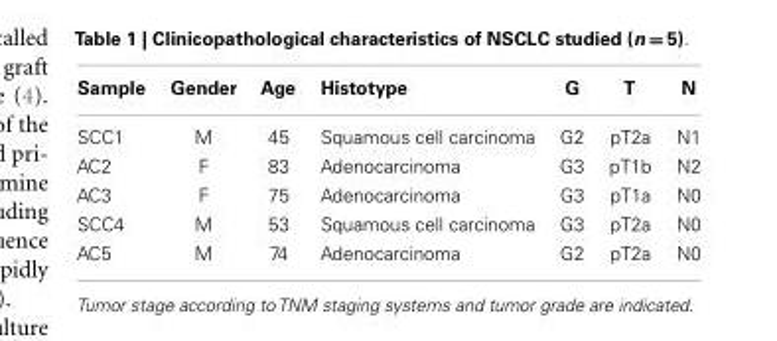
<table><thead><tr><td>Sample</td><td>Gender</td><td>Age</td><td>Histotype</td><td>G</td><td>T</td><td>N</td></tr></thead><tbody><tr><td>SCC1</td><td>M</td><td>45</td><td>Squamous cell carcinoma</td><td>G2</td><td>pT2a</td><td>N1</td></tr><tr><td>AC2</td><td>F</td><td>83</td><td>Adenocarcinoma</td><td>G3</td><td>pT1b</td><td>N2</td></tr><tr><td>AC3</td><td>F</td><td>75</td><td>Adenocarcinoma</td><td>G3</td><td>pT1a</td><td>N0</td></tr><tr><td>SCC4</td><td>M</td><td>53</td><td>Squamous cell carcinoma</td><td>G3</td><td>pT2a</td><td>N0</td></tr><tr><td>AC5</td><td>M</td><td>74</td><td>Adenocarcinoma</td><td>G2</td><td>pT2a</td><td>N0</td></tr></tbody></table>